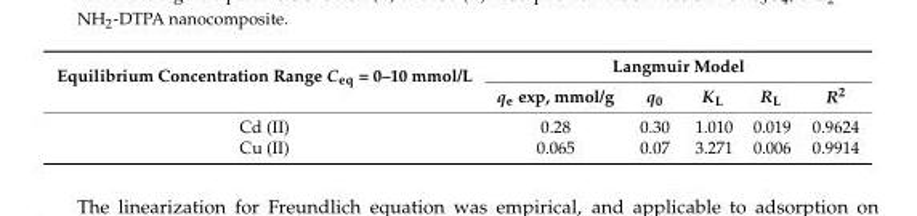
<table><thead><tr><td rowspan="2">Equilibrium Concentration Range Ceq = 0–10 mmol/L</td><td colspan="5">Langmuir Model</td></tr><tr><td>qe exp, mmol/g</td><td>q0</td><td>KL</td><td>RL</td><td>R2</td></tr></thead><tbody><tr><td>Cd (II)</td><td>0.28</td><td>0.30</td><td>1.010</td><td>0.019</td><td>0.9624</td></tr><tr><td>Cu (II)</td><td>0.065</td><td>0.07</td><td>3.271</td><td>0.006</td><td>0.9914</td></tr></tbody></table>